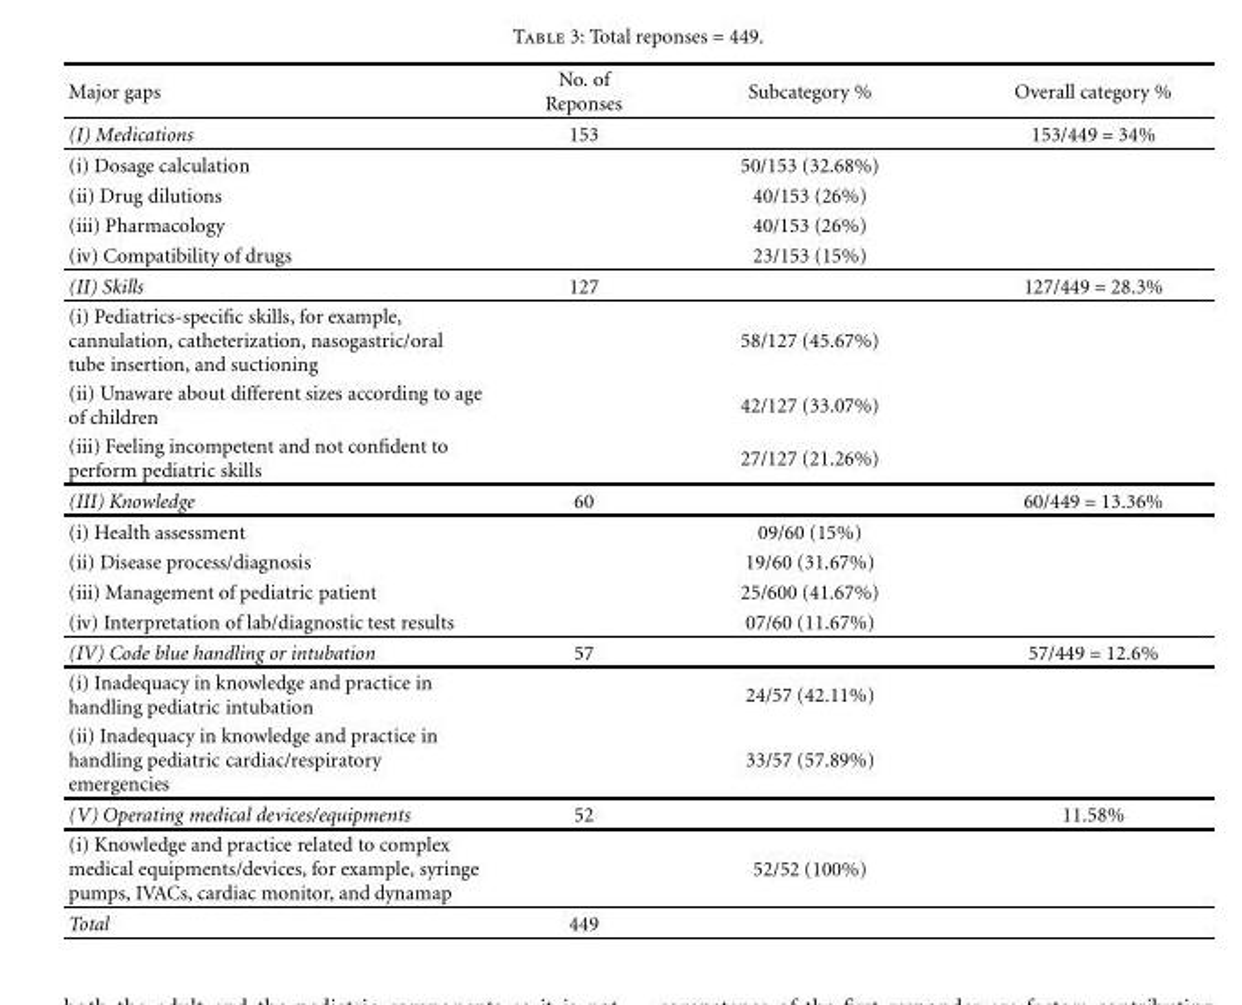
<table><thead><tr><td>Major gaps</td><td>No. of Reponses</td><td>Subcategory %</td><td>Overall category %</td></tr></thead><tbody><tr><td>(I) Medications</td><td>153</td><td></td><td>153/449 = 34%</td></tr><tr><td>(i) Dosage calculation</td><td></td><td>50/153 (32.68%)</td><td></td></tr><tr><td>(ii) Drug dilutions</td><td></td><td>40/153 (26%)</td><td></td></tr><tr><td>(iii) Pharmacology</td><td></td><td>40/153 (26%)</td><td></td></tr><tr><td>(iv) Compatibility of drugs</td><td></td><td>23/153 (15%)</td><td></td></tr><tr><td>(II) Skills</td><td>127</td><td></td><td>127/449 = 28.3%</td></tr><tr><td>(i) Pediatrics-specific skills, for example, cannulation, catheterization, nasogastric/oral tube insertion, and suctioning</td><td></td><td>58/127 (45.67%)</td><td></td></tr><tr><td>(ii) Unaware about different sizes according to age of children</td><td></td><td>42/127 (33.07%)</td><td></td></tr><tr><td>(iii) Feeling incompetent and not confident to perform pediatric skills</td><td></td><td>27/127 (21.26%)</td><td></td></tr><tr><td>(III) Knowledge</td><td>60</td><td></td><td>60/449 = 13.36%</td></tr><tr><td>(i) Health assessment</td><td></td><td>09/60 (15%)</td><td></td></tr><tr><td>(ii) Disease process/diagnosis</td><td></td><td>19/60 (31.67%)</td><td></td></tr><tr><td>(iii) Management of pediatric patient</td><td></td><td>25/600 (41.67%)</td><td></td></tr><tr><td>(iv) Interpretation of lab/diagnostic test results</td><td></td><td>07/60 (11.67%)</td><td></td></tr><tr><td>(IV) Code blue handling or intubation</td><td>57</td><td></td><td>57/449 = 12.6%</td></tr><tr><td>(i) Inadequacy in knowledge and practice in handling pediatric intubation</td><td></td><td>24/57 (42.11%)</td><td></td></tr><tr><td>(ii) Inadequacy in knowledge and practice in handling pediatric cardiac/respiratory emergencies</td><td></td><td>33/57 (57.89%)</td><td></td></tr><tr><td>(V) Operating medical devices/equipments</td><td>52</td><td></td><td>11.58%</td></tr><tr><td>(i) Knowledge and practice related to complex medical equipments/devices, for example, syringe pumps, IVACs, cardiac monitor, and dynamap</td><td></td><td>52/52 (100%)</td><td></td></tr><tr><td>Total</td><td>449</td><td></td><td></td></tr></tbody></table>